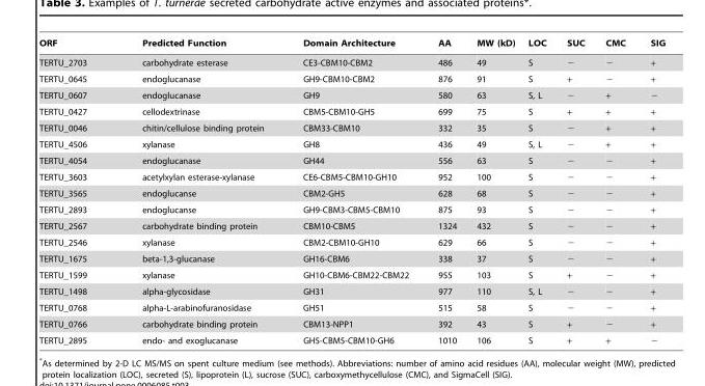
<table><thead><tr><td>ORF</td><td>Predicted Function</td><td>Domain Architecture</td><td>AA</td><td>MW (kD)</td><td>LOC</td><td>SUC</td><td>CMC</td><td>SIG</td></tr></thead><tbody><tr><td>TERTU_2703</td><td>carbohydrate esterase</td><td>CE3-CBM10-CBM2</td><td>486</td><td>49</td><td>S</td><td>−</td><td>−</td><td>+</td></tr><tr><td>TERTU_0645</td><td>endoglucanase</td><td>GH9-CBM10-CBM2</td><td>876</td><td>91</td><td>S</td><td>+</td><td>−</td><td>+</td></tr><tr><td>TERTU_0607</td><td>endoglucanase</td><td>GH9</td><td>580</td><td>63</td><td>S, L</td><td>−</td><td>+</td><td>−</td></tr><tr><td>TERTU_0427</td><td>cellodextrinase</td><td>CBM5-CBM10-GH5</td><td>699</td><td>75</td><td>S</td><td>+</td><td>+</td><td>+</td></tr><tr><td>TERTU_0046</td><td>chitin/cellulose binding protein</td><td>CBM33-CBM10</td><td>332</td><td>35</td><td>S</td><td>−</td><td>+</td><td>+</td></tr><tr><td>TERTU_4506</td><td>xylanase</td><td>GH8</td><td>436</td><td>49</td><td>S, L</td><td>−</td><td>+</td><td>+</td></tr><tr><td>TERTU_4054</td><td>endoglucanase</td><td>GH44</td><td>556</td><td>63</td><td>S</td><td>−</td><td>−</td><td>+</td></tr><tr><td>TERTU_3603</td><td>acetylxylan esterase-xylanase</td><td>CE6-CBM5-CBM10-GH10</td><td>952</td><td>100</td><td>S</td><td>−</td><td>−</td><td>+</td></tr><tr><td>TERTU_3565</td><td>endoglucanse</td><td>CBM2-GH5</td><td>628</td><td>68</td><td>S</td><td>−</td><td>−</td><td>+</td></tr><tr><td>TERTU_2893</td><td>endoglucanse</td><td>GH9-CBM3-CBM5-CBM10</td><td>875</td><td>93</td><td>S</td><td>−</td><td>−</td><td>+</td></tr><tr><td>TERTU_2567</td><td>carbohydrate binding protein</td><td>CBM10-CBM5</td><td>1324</td><td>432</td><td>S</td><td>−</td><td>−</td><td>+</td></tr><tr><td>TERTU_2546</td><td>xylanase</td><td>CBM2-CBM10-GH10</td><td>629</td><td>66</td><td>S</td><td>−</td><td>−</td><td>+</td></tr><tr><td>TERTU_1675</td><td>beta-1,3-glucanase</td><td>GH16-CBM6</td><td>338</td><td>37</td><td>S</td><td>−</td><td>−</td><td>+</td></tr><tr><td>TERTU_1599</td><td>xylanase</td><td>GH10-CBM6-CBM22-CBM22</td><td>955</td><td>103</td><td>S</td><td>+</td><td>−</td><td>+</td></tr><tr><td>TERTU_1498</td><td>alpha-glycosidase</td><td>GH31</td><td>977</td><td>110</td><td>S, L</td><td>−</td><td>−</td><td>+</td></tr><tr><td>TERTU_0768</td><td>alpha-L-arabinofuranosidase</td><td>GH51</td><td>515</td><td>58</td><td>S</td><td>−</td><td>−</td><td>+</td></tr><tr><td>TERTU_0766</td><td>carbohydrate binding protein</td><td>CBM13-NPP1</td><td>392</td><td>43</td><td>S</td><td>+</td><td>−</td><td>+</td></tr><tr><td>TERTU_2895</td><td>endo- and exoglucanase</td><td>GH5-CBM5-CBM10-GH6</td><td>1010</td><td>106</td><td>S</td><td>+</td><td>+</td><td>−</td></tr></tbody></table>